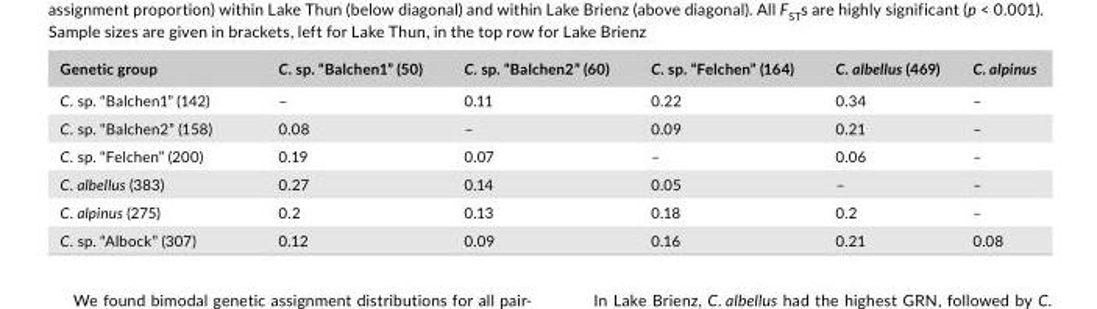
<table><thead><tr><td>Genetic group</td><td>C. sp. “Balchen1” (50)</td><td>C. sp. “Balchen2” (60)</td><td>C. sp. “Felchen” (164)</td><td>C. albellus (469)</td><td>C. alpinus</td></tr></thead><tbody><tr><td>C. sp. “Balchen1” (142)</td><td>–</td><td>0.11</td><td>0.22</td><td>0.34</td><td>–</td></tr><tr><td>C. sp. “Balchen2” (158)</td><td>0.08</td><td>–</td><td>0.09</td><td>0.21</td><td>–</td></tr><tr><td>C. sp. “Felchen” (200)</td><td>0.19</td><td>0.07</td><td>–</td><td>0.06</td><td>–</td></tr><tr><td>C. albellus (383)</td><td>0.27</td><td>0.14</td><td>0.05</td><td>–</td><td>–</td></tr><tr><td>C. alpinus (275)</td><td>0.2</td><td>0.13</td><td>0.18</td><td>0.2</td><td>–</td></tr><tr><td>C. sp. “Albock” (307)</td><td>0.12</td><td>0.09</td><td>0.16</td><td>0.21</td><td>0.08</td></tr></tbody></table>